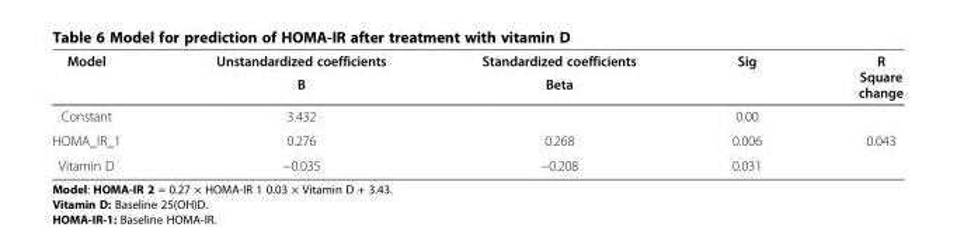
<table><thead><tr><td rowspan="2">Model</td><td rowspan="2">Unstandardized coefficients B</td><td rowspan="2">Standardized coefficients Beta</td><td rowspan="2">Sig</td><td rowspan="2">R Square change</td></tr><tr></tr></thead><tbody><tr><td>Constant</td><td>3.432</td><td></td><td>0.00</td><td></td></tr><tr><td>HOMA_IR_1</td><td>0.276</td><td>0.268</td><td>0.006</td><td>0.043</td></tr><tr><td>Vitamin D</td><td>−0.035</td><td>−0.208</td><td>0.031</td><td></td></tr></tbody></table>